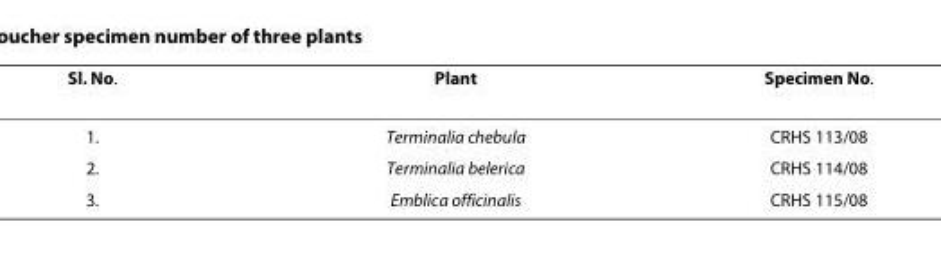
<table><thead><tr><td>Sl. No.</td><td>Plant</td><td>Specimen No.</td></tr></thead><tbody><tr><td>1.</td><td>Terminalia chebula</td><td>CRHS 113/08</td></tr><tr><td>2.</td><td>Terminalia belerica</td><td>CRHS 114/08</td></tr><tr><td>3.</td><td>Emblica officinalis</td><td>CRHS 115/08</td></tr></tbody></table>